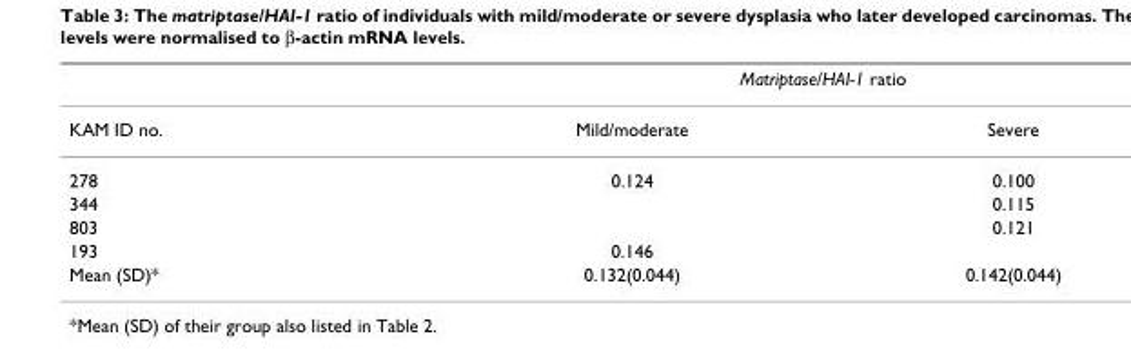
<table><thead><tr><td rowspan="2">KAM ID no.</td><td colspan="2">Matriptase/HAI-1 ratio</td></tr><tr><td>Mild/moderate</td><td>Severe</td></tr></thead><tbody><tr><td>278</td><td>0.124</td><td>0.100</td></tr><tr><td>344</td><td></td><td>0.115</td></tr><tr><td>803</td><td></td><td>0.121</td></tr><tr><td>193</td><td>0.146</td><td></td></tr><tr><td>Mean (SD)*</td><td>0.132(0.044)</td><td>0.142(0.044)</td></tr></tbody></table>